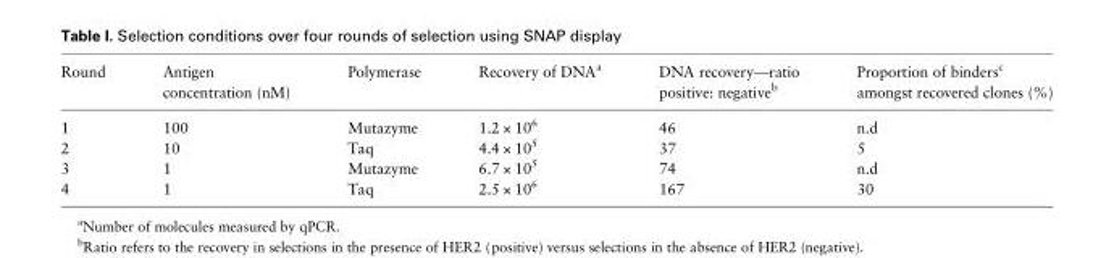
<table><thead><tr><td>Round</td><td>Antigen concentration (nM)</td><td>Polymerase</td><td>Recovery of DNA<sup>a</sup></td><td>DNA recovery—ratio positive: negative<sup>b</sup></td><td>Proportion of binders<sup>c</sup> amongst recovered clones (%)</td></tr></thead><tbody><tr><td>1</td><td>100</td><td>Mutazyme</td><td>1.2 × 10<sup>6</sup></td><td>46</td><td>n.d</td></tr><tr><td>2</td><td>10</td><td>Taq</td><td>4.4 × 10<sup>5</sup></td><td>37</td><td>5</td></tr><tr><td>3</td><td>1</td><td>Mutazyme</td><td>6.7 × 10<sup>5</sup></td><td>74</td><td>n.d</td></tr><tr><td>4</td><td>1</td><td>Taq</td><td>2.5 × 10<sup>6</sup></td><td>167</td><td>30</td></tr></tbody></table>